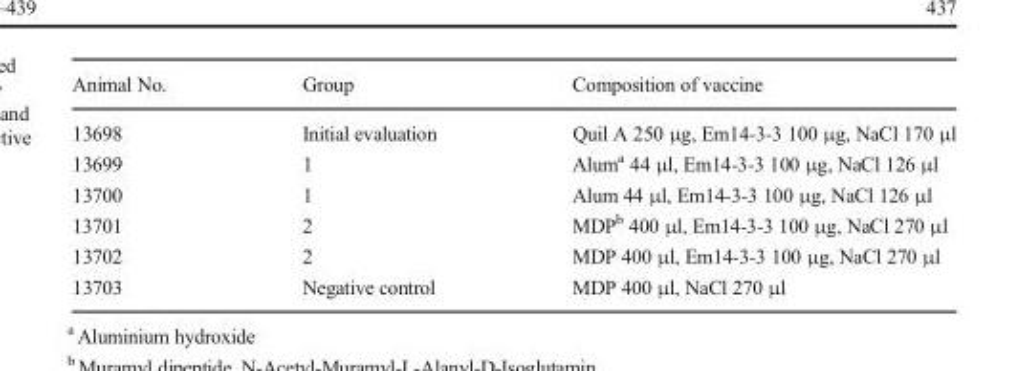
<table><thead><tr><td>Animal No.</td><td>Group</td><td>Composition of vaccine</td></tr></thead><tbody><tr><td>13698</td><td>Initial evaluation</td><td>Quil A 250 μg, Em14-3-3 100 μg, NaCl 170 μl</td></tr><tr><td>13699</td><td>1</td><td>Alum<sup>a</sup> 44 μl, Em14-3-3 100 μg, NaCl 126 μl</td></tr><tr><td>13700</td><td>1</td><td>Alum 44 μl, Em14-3-3 100 μg, NaCl 126 μl</td></tr><tr><td>13701</td><td>2</td><td>MDP<sup>b</sup> 400 μl, Em14-3-3 100 μg, NaCl 270 μl</td></tr><tr><td>13702</td><td>2</td><td>MDP 400 μl, Em14-3-3 100 μg, NaCl 270 μl</td></tr><tr><td>13703</td><td>Negative control</td><td>MDP 400 μl, NaCl 270 μl</td></tr></tbody></table>